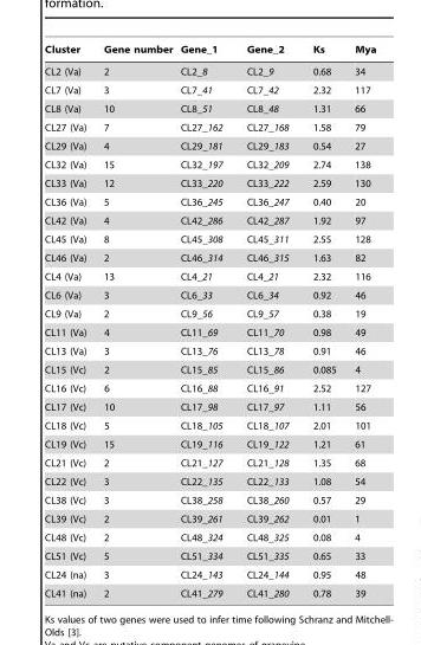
<table><thead><tr><td>Cluster</td><td>Gene number</td><td>Gene_1</td><td>Gene_2</td><td>Ks</td><td>Mya</td></tr></thead><tbody><tr><td>CL2 (Va)</td><td>2</td><td>CL2_8</td><td>CL2_9</td><td>0.68</td><td>34</td></tr><tr><td>CL7 (Va)</td><td>3</td><td>CL7_41</td><td>CL7_42</td><td>2.32</td><td>117</td></tr><tr><td>CL8 (Va)</td><td>10</td><td>CL8_51</td><td>CL8_48</td><td>1.31</td><td>66</td></tr><tr><td>CL27 (Va)</td><td>7</td><td>CL27_162</td><td>CL27_168</td><td>1.58</td><td>79</td></tr><tr><td>CL29 (Va)</td><td>4</td><td>CL29_181</td><td>CL29_183</td><td>0.54</td><td>27</td></tr><tr><td>CL32 (Va)</td><td>15</td><td>CL32_197</td><td>CL32_209</td><td>2.74</td><td>138</td></tr><tr><td>CL33 (Va)</td><td>12</td><td>CL33_220</td><td>CL33_222</td><td>2.59</td><td>130</td></tr><tr><td>CL36 (Va)</td><td>5</td><td>CL36_245</td><td>CL36_247</td><td>0.40</td><td>20</td></tr><tr><td>CL42 (Va)</td><td>4</td><td>CL42_286</td><td>CL42_287</td><td>1.92</td><td>97</td></tr><tr><td>CL45 (Va)</td><td>8</td><td>CL45_308</td><td>CL45_311</td><td>2.55</td><td>128</td></tr><tr><td>CL46 (Va)</td><td>2</td><td>CL46_314</td><td>CL46_315</td><td>1.63</td><td>82</td></tr><tr><td>CL4 (Va)</td><td>13</td><td>CL4_21</td><td>CL4_21</td><td>2.32</td><td>116</td></tr><tr><td>CL6 (Va)</td><td>3</td><td>CL6_33</td><td>CL6_34</td><td>0.92</td><td>46</td></tr><tr><td>CL9 (Va)</td><td>2</td><td>CL9_56</td><td>CL9_57</td><td>0.38</td><td>19</td></tr><tr><td>CL11 (Va)</td><td>4</td><td>CL11_69</td><td>CL11_70</td><td>0.98</td><td>49</td></tr><tr><td>CL13 (Va)</td><td>3</td><td>CL13_76</td><td>CL13_78</td><td>0.91</td><td>46</td></tr><tr><td>CL15 (Vc)</td><td>2</td><td>CL15_85</td><td>CL15_86</td><td>0.085</td><td>4</td></tr><tr><td>CL16 (Vc)</td><td>6</td><td>CL16_88</td><td>CL16_91</td><td>2.52</td><td>127</td></tr><tr><td>CL17 (Vc)</td><td>10</td><td>CL17_98</td><td>CL17_97</td><td>1.11</td><td>56</td></tr><tr><td>CL18 (Vc)</td><td>5</td><td>CL18_105</td><td>CL18_107</td><td>2.01</td><td>101</td></tr><tr><td>CL19 (Vc)</td><td>15</td><td>CL19_116</td><td>CL19_122</td><td>1.21</td><td>61</td></tr><tr><td>CL21 (Vc)</td><td>2</td><td>CL21_127</td><td>CL21_128</td><td>1.35</td><td>68</td></tr><tr><td>CL22 (Vc)</td><td>3</td><td>CL22_135</td><td>CL22_133</td><td>1.08</td><td>54</td></tr><tr><td>CL38 (Vc)</td><td>3</td><td>CL38_258</td><td>CL38_260</td><td>0.57</td><td>29</td></tr><tr><td>CL39 (Vc)</td><td>2</td><td>CL39_261</td><td>CL39_262</td><td>0.01</td><td>1</td></tr><tr><td>CL48 (Vc)</td><td>2</td><td>CL48_324</td><td>CL48_325</td><td>0.08</td><td>4</td></tr><tr><td>CL51 (Vc)</td><td>5</td><td>CL51_334</td><td>CL51_335</td><td>0.65</td><td>33</td></tr><tr><td>CL24 (na)</td><td>3</td><td>CL24_143</td><td>CL24_144</td><td>0.95</td><td>48</td></tr><tr><td>CL41 (na)</td><td>2</td><td>CL41_279</td><td>CL41_280</td><td>0.78</td><td>39</td></tr></tbody></table>